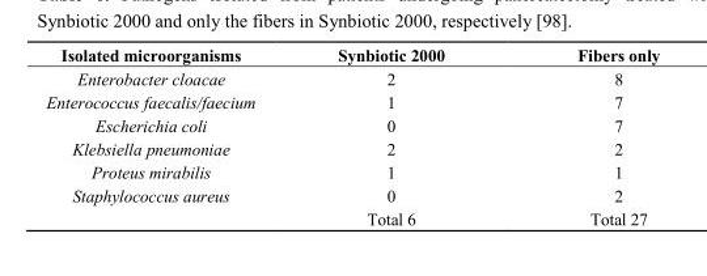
<table><thead><tr><td>Isolated microorganisms</td><td>Synbiotic 2000</td><td>Fibers only</td></tr></thead><tbody><tr><td>Enterobacter cloacae</td><td>2</td><td>8</td></tr><tr><td>Enterococcus faecalis/faecium</td><td>1</td><td>7</td></tr><tr><td>Escherichia coli</td><td>0</td><td>7</td></tr><tr><td>Klebsiella pneumoniae</td><td>2</td><td>2</td></tr><tr><td>Proteus mirabilis</td><td>1</td><td>1</td></tr><tr><td rowspan="2">Staphylococcus aureus</td><td>0</td><td>2</td></tr><tr><td>Total 6</td><td>Total 27</td></tr></tbody></table>